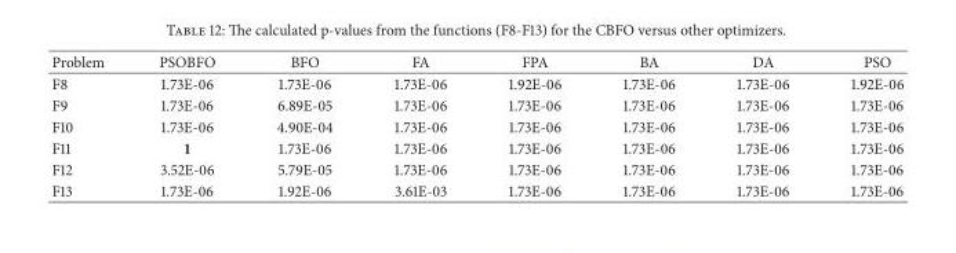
<table><thead><tr><td>Problem</td><td>PSOBFO</td><td>BFO</td><td>FA</td><td>FPA</td><td>BA</td><td>DA</td><td>PSO</td></tr></thead><tbody><tr><td>F8</td><td>1.73E-06</td><td>1.73E-06</td><td>1.73E-06</td><td>1.92E-06</td><td>1.73E-06</td><td>1.73E-06</td><td>1.92E-06</td></tr><tr><td>F9</td><td>1.73E-06</td><td>6.89E-05</td><td>1.73E-06</td><td>1.73E-06</td><td>1.73E-06</td><td>1.73E-06</td><td>1.73E-06</td></tr><tr><td>F10</td><td>1.73E-06</td><td>4.90E-04</td><td>1.73E-06</td><td>1.73E-06</td><td>1.73E-06</td><td>1.73E-06</td><td>1.73E-06</td></tr><tr><td>F11</td><td>1</td><td>1.73E-06</td><td>1.73E-06</td><td>1.73E-06</td><td>1.73E-06</td><td>1.73E-06</td><td>1.73E-06</td></tr><tr><td>F12</td><td>3.52E-06</td><td>5.79E-05</td><td>1.73E-06</td><td>1.73E-06</td><td>1.73E-06</td><td>1.73E-06</td><td>1.73E-06</td></tr><tr><td>F13</td><td>1.73E-06</td><td>1.92E-06</td><td>3.61E-03</td><td>1.73E-06</td><td>1.73E-06</td><td>1.73E-06</td><td>1.73E-06</td></tr></tbody></table>